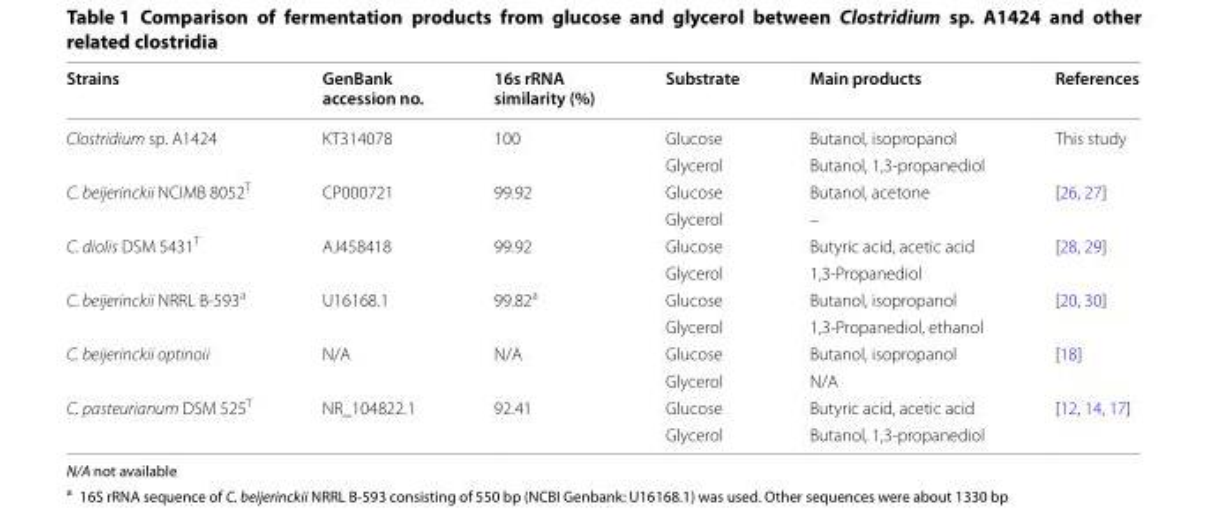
<table><thead><tr><td>Strains</td><td>GenBank accession no.</td><td>16s rRNA similarity (%)</td><td>Substrate</td><td>Main products</td><td>References</td></tr></thead><tbody><tr><td rowspan="2">Clostridium sp. A1424</td><td rowspan="2">KT314078</td><td rowspan="2">100</td><td>Glucose</td><td>Butanol, isopropanol</td><td rowspan="2">This study</td></tr><tr><td>Glycerol</td><td>Butanol, 1,3‑propanediol</td></tr><tr><td rowspan="2">C. beijerinckii NCIMB 8052<sup>T</sup></td><td rowspan="2">CP000721</td><td rowspan="2">99.92</td><td>Glucose</td><td>Butanol, acetone</td><td rowspan="2">[26, 27]</td></tr><tr><td>Glycerol</td><td>–</td></tr><tr><td rowspan="2">C. diolis DSM 5431<sup>T</sup></td><td rowspan="2">AJ458418</td><td rowspan="2">99.92</td><td>Glucose</td><td>Butyric acid, acetic acid</td><td rowspan="2">[28, 29]</td></tr><tr><td>Glycerol</td><td>1,3‑Propanediol</td></tr><tr><td rowspan="2">C. beijerinckii NRRL B‑593<sup>a</sup></td><td rowspan="2">U16168.1</td><td rowspan="2">99.82<sup>a</sup></td><td>Glucose</td><td>Butanol, isopropanol</td><td rowspan="2">[20, 30]</td></tr><tr><td>Glycerol</td><td>1,3‑Propanediol, ethanol</td></tr><tr><td rowspan="2">C. beijerinckii optinoii</td><td rowspan="2">N/A</td><td rowspan="2">N/A</td><td>Glucose</td><td>Butanol, isopropanol</td><td rowspan="2">[18]</td></tr><tr><td>Glycerol</td><td>N/A</td></tr><tr><td rowspan="2">C. pasteurianum DSM 525<sup>T</sup></td><td rowspan="2">NR_104822.1</td><td rowspan="2">92.41</td><td>Glucose</td><td>Butyric acid, acetic acid</td><td rowspan="2">[12, 14, 17]</td></tr><tr><td>Glycerol</td><td>Butanol, 1,3‑propanediol</td></tr></tbody></table>